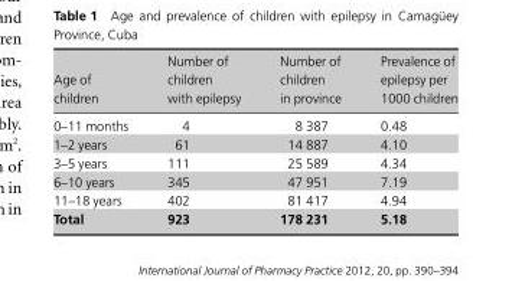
<table><thead><tr><td>Age of children</td><td>Number of children with epilepsy</td><td>Number of children in province</td><td>Prevalence of epilepsy per 1000 children</td></tr></thead><tbody><tr><td>0–11 months</td><td>4</td><td>8 387</td><td>0.48</td></tr><tr><td>1–2 years</td><td>61</td><td>14 887</td><td>4.10</td></tr><tr><td>3–5 years</td><td>111</td><td>25 589</td><td>4.34</td></tr><tr><td>6–10 years</td><td>345</td><td>47 951</td><td>7.19</td></tr><tr><td>11–18 years</td><td>402</td><td>81 417</td><td>4.94</td></tr><tr><td>Total</td><td>923</td><td>178 231</td><td>5.18</td></tr></tbody></table>